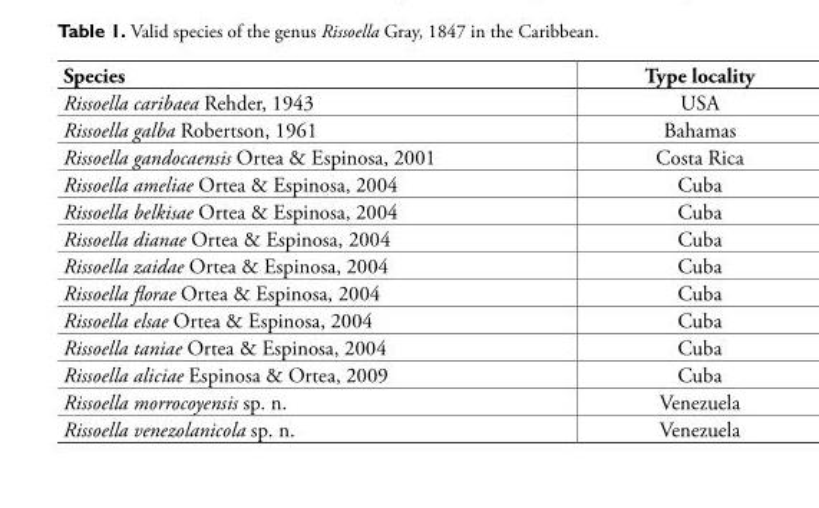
<table><tbody><tr><td>Species</td><td>Type locality</td></tr><tr><td>Rissoella caribaea Rehder, 1943</td><td>USA</td></tr><tr><td>Rissoella galba Robertson, 1961</td><td>Bahamas</td></tr><tr><td>Rissoella gandocaensis Ortea &amp; Espinosa, 2001</td><td>Costa Rica</td></tr><tr><td>Rissoella ameliae Ortea &amp; Espinosa, 2004</td><td>Cuba</td></tr><tr><td>Rissoella belkisae Ortea &amp; Espinosa, 2004</td><td>Cuba</td></tr><tr><td>Rissoella dianae Ortea &amp; Espinosa, 2004</td><td>Cuba</td></tr><tr><td>Rissoella zaidae Ortea &amp; Espinosa, 2004</td><td>Cuba</td></tr><tr><td>Rissoella florae Ortea &amp; Espinosa, 2004</td><td>Cuba</td></tr><tr><td>Rissoella elsae Ortea &amp; Espinosa, 2004</td><td>Cuba</td></tr><tr><td>Rissoella taniae Ortea &amp; Espinosa, 2004</td><td>Cuba</td></tr><tr><td>Rissoella aliciae Espinosa &amp; Ortea, 2009</td><td>Cuba</td></tr><tr><td>Rissoella morrocoyensis sp. n.</td><td>Venezuela</td></tr><tr><td>Rissoella venezolanicola sp. n.</td><td>Venezuela</td></tr></tbody></table>